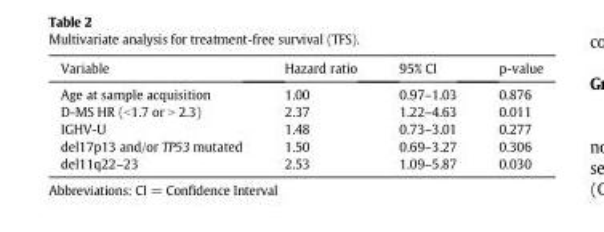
<table><thead><tr><td>Variable</td><td>Hazard ratio</td><td>95% CI</td><td>p-value</td></tr></thead><tbody><tr><td>Age at sample acquisition</td><td>1.00</td><td>0.97–1.03</td><td>0.876</td></tr><tr><td>D-MS HR (&lt;1.7 or &gt; 2.3)</td><td>2.37</td><td>1.22–4.63</td><td>0.011</td></tr><tr><td>IGHV-U</td><td>1.48</td><td>0.73–3.01</td><td>0.277</td></tr><tr><td>del17p13 and/or TP53 mutated</td><td>1.50</td><td>0.69–3.27</td><td>0.306</td></tr><tr><td>del11q22–23</td><td>2.53</td><td>1.09–5.87</td><td>0.030</td></tr></tbody></table>